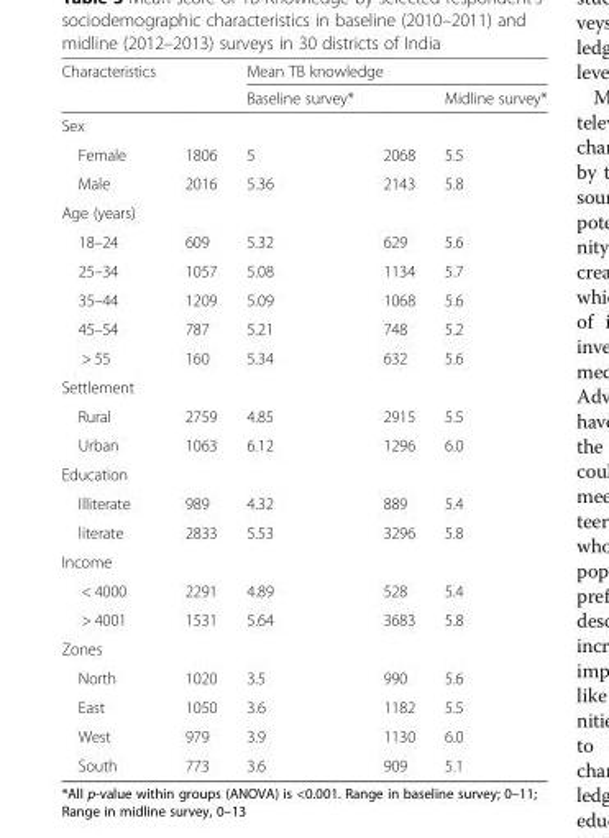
<table><thead><tr><td rowspan="2">Characteristics</td><td rowspan="2"></td><td colspan="3">Mean TB knowledge</td></tr><tr><td>Baseline survey*</td><td></td><td>Midline survey*</td></tr></thead><tbody><tr><td colspan="5">Sex</td></tr><tr><td>Female</td><td>1806</td><td>5</td><td>2068</td><td>5.5</td></tr><tr><td>Male</td><td>2016</td><td>5.36</td><td>2143</td><td>5.8</td></tr><tr><td colspan="5">Age (years)</td></tr><tr><td>18–24</td><td>609</td><td>5.32</td><td>629</td><td>5.6</td></tr><tr><td>25–34</td><td>1057</td><td>5.08</td><td>1134</td><td>5.7</td></tr><tr><td>35–44</td><td>1209</td><td>5.09</td><td>1068</td><td>5.6</td></tr><tr><td>45–54</td><td>787</td><td>5.21</td><td>748</td><td>5.2</td></tr><tr><td>&gt; 55</td><td>160</td><td>5.34</td><td>632</td><td>5.6</td></tr><tr><td colspan="5">Settlement</td></tr><tr><td>Rural</td><td>2759</td><td>4.85</td><td>2915</td><td>5.5</td></tr><tr><td>Urban</td><td>1063</td><td>6.12</td><td>1296</td><td>6.0</td></tr><tr><td colspan="5">Education</td></tr><tr><td>Illiterate</td><td>989</td><td>4.32</td><td>889</td><td>5.4</td></tr><tr><td>literate</td><td>2833</td><td>5.53</td><td>3296</td><td>5.8</td></tr><tr><td colspan="5">Income</td></tr><tr><td>&lt; 4000</td><td>2291</td><td>4.89</td><td>528</td><td>5.4</td></tr><tr><td>&gt; 4001</td><td>1531</td><td>5.64</td><td>3683</td><td>5.8</td></tr><tr><td colspan="5">Zones</td></tr><tr><td>North</td><td>1020</td><td>3.5</td><td>990</td><td>5.6</td></tr><tr><td>East</td><td>1050</td><td>3.6</td><td>1182</td><td>5.5</td></tr><tr><td>West</td><td>979</td><td>3.9</td><td>1130</td><td>6.0</td></tr><tr><td>South</td><td>773</td><td>3.6</td><td>909</td><td>5.1</td></tr></tbody></table>